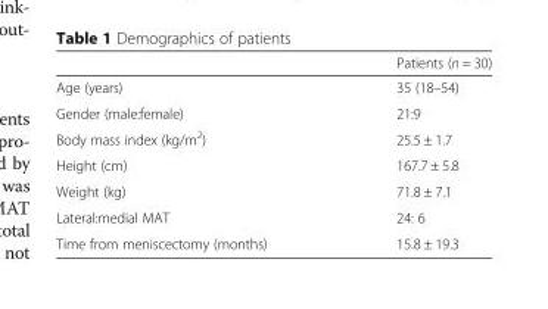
<table><thead><tr><td></td><td>Patients (n = 30)</td></tr></thead><tbody><tr><td>Age (years)</td><td>35 (18–54)</td></tr><tr><td>Gender (male:female)</td><td>21:9</td></tr><tr><td>Body mass index (kg/m<sup>2</sup>)</td><td>25.5 ± 1.7</td></tr><tr><td>Height (cm)</td><td>167.7 ± 5.8</td></tr><tr><td>Weight (kg)</td><td>71.8 ± 7.1</td></tr><tr><td>Lateral:medial MAT</td><td>24: 6</td></tr><tr><td>Time from meniscectomy (months)</td><td>15.8 ± 19.3</td></tr></tbody></table>